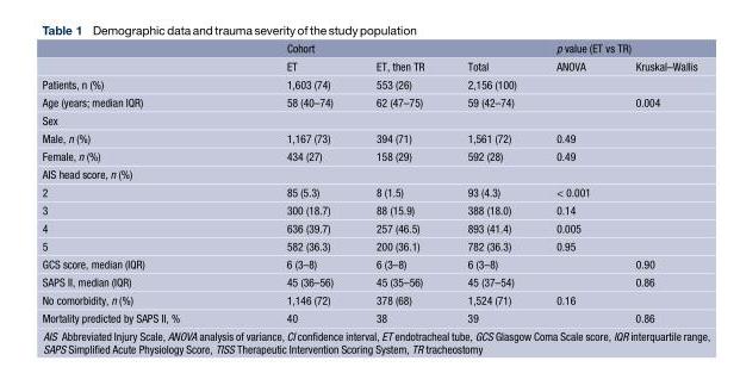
<table><thead><tr><td rowspan="2"></td><td colspan="3">Cohort</td><td colspan="2">p value (ET vs TR)</td></tr><tr><td>ET</td><td>ET, then TR</td><td>Total</td><td>ANOVA</td><td>Kruskal–Wallis</td></tr></thead><tbody><tr><td>Patients, n (%)</td><td>1,603 (74)</td><td>553 (26)</td><td>2,156 (100)</td><td></td><td></td></tr><tr><td>Age (years; median IQR)</td><td>58 (40–74)</td><td>62 (47–75)</td><td>59 (42–74)</td><td></td><td>0.004</td></tr><tr><td colspan="6">Sex</td></tr><tr><td>Male, n (%)</td><td>1,167 (73)</td><td>394 (71)</td><td>1,561 (72)</td><td>0.49</td><td></td></tr><tr><td>Female, n (%)</td><td>434 (27)</td><td>158 (29)</td><td>592 (28)</td><td>0.49</td><td></td></tr><tr><td colspan="6">AIS head score, n (%)</td></tr><tr><td>2</td><td>85 (5.3)</td><td>8 (1.5)</td><td>93 (4.3)</td><td>&lt; 0.001</td><td></td></tr><tr><td>3</td><td>300 (18.7)</td><td>88 (15.9)</td><td>388 (18.0)</td><td>0.14</td><td></td></tr><tr><td>4</td><td>636 (39.7)</td><td>257 (46.5)</td><td>893 (41.4)</td><td>0.005</td><td></td></tr><tr><td>5</td><td>582 (36.3)</td><td>200 (36.1)</td><td>782 (36.3)</td><td>0.95</td><td></td></tr><tr><td>GCS score, median (IQR)</td><td>6 (3–8)</td><td>6 (3–8)</td><td>6 (3–8)</td><td></td><td>0.90</td></tr><tr><td>SAPS II, median (IQR)</td><td>45 (36–56)</td><td>45 (35–56)</td><td>45 (37–54)</td><td></td><td>0.86</td></tr><tr><td>No comorbidity, n (%)</td><td>1,146 (72)</td><td>378 (68)</td><td>1,524 (71)</td><td>0.16</td><td></td></tr><tr><td>Mortality predicted by SAPS II, %</td><td>40</td><td>38</td><td>39</td><td></td><td>0.86</td></tr></tbody></table>